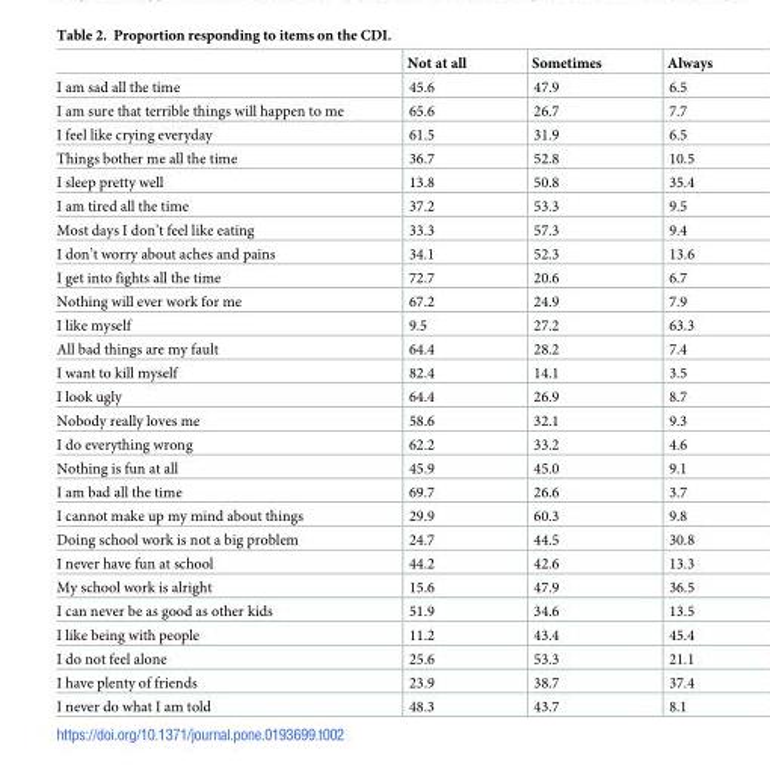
<table><thead><tr><td></td><td>Not at all</td><td>Sometimes</td><td>Always</td></tr></thead><tbody><tr><td>I am sad all the time</td><td>45.6</td><td>47.9</td><td>6.5</td></tr><tr><td>I am sure that terrible things will happen to me</td><td>65.6</td><td>26.7</td><td>7.7</td></tr><tr><td>I feel like crying everyday</td><td>61.5</td><td>31.9</td><td>6.5</td></tr><tr><td>Things bother me all the time</td><td>36.7</td><td>52.8</td><td>10.5</td></tr><tr><td>I sleep pretty well</td><td>13.8</td><td>50.8</td><td>35.4</td></tr><tr><td>I am tired all the time</td><td>37.2</td><td>53.3</td><td>9.5</td></tr><tr><td>Most days I don’t feel like eating</td><td>33.3</td><td>57.3</td><td>9.4</td></tr><tr><td>I don’t worry about aches and pains</td><td>34.1</td><td>52.3</td><td>13.6</td></tr><tr><td>I get into fights all the time</td><td>72.7</td><td>20.6</td><td>6.7</td></tr><tr><td>Nothing will ever work for me</td><td>67.2</td><td>24.9</td><td>7.9</td></tr><tr><td>I like myself</td><td>9.5</td><td>27.2</td><td>63.3</td></tr><tr><td>All bad things are my fault</td><td>64.4</td><td>28.2</td><td>7.4</td></tr><tr><td>I want to kill myself</td><td>82.4</td><td>14.1</td><td>3.5</td></tr><tr><td>I look ugly</td><td>64.4</td><td>26.9</td><td>8.7</td></tr><tr><td>Nobody really loves me</td><td>58.6</td><td>32.1</td><td>9.3</td></tr><tr><td>I do everything wrong</td><td>62.2</td><td>33.2</td><td>4.6</td></tr><tr><td>Nothing is fun at all</td><td>45.9</td><td>45.0</td><td>9.1</td></tr><tr><td>I am bad all the time</td><td>69.7</td><td>26.6</td><td>3.7</td></tr><tr><td>I cannot make up my mind about things</td><td>29.9</td><td>60.3</td><td>9.8</td></tr><tr><td>Doing school work is not a big problem</td><td>24.7</td><td>44.5</td><td>30.8</td></tr><tr><td>I never have fun at school</td><td>44.2</td><td>42.6</td><td>13.3</td></tr><tr><td>My school work is alright</td><td>15.6</td><td>47.9</td><td>36.5</td></tr><tr><td>I can never be as good as other kids</td><td>51.9</td><td>34.6</td><td>13.5</td></tr><tr><td>I like being with people</td><td>11.2</td><td>43.4</td><td>45.4</td></tr><tr><td>I do not feel alone</td><td>25.6</td><td>53.3</td><td>21.1</td></tr><tr><td>I have plenty of friends</td><td>23.9</td><td>38.7</td><td>37.4</td></tr><tr><td>I never do what I am told</td><td>48.3</td><td>43.7</td><td>8.1</td></tr></tbody></table>